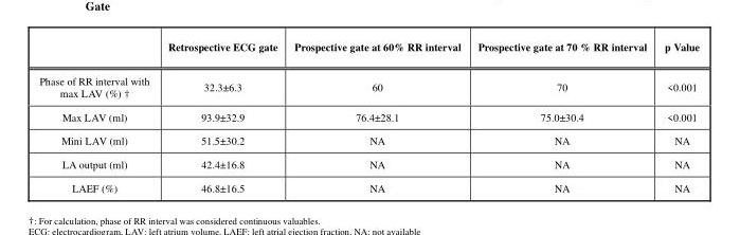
<table><thead><tr><td></td><td>Retrospective ECG gate</td><td>Prospective gate at 60% RR interval</td><td>Prospective gate at 70 % RR interval</td><td>p Value</td></tr></thead><tbody><tr><td>Phase of RR interval with max LAV (%) †</td><td>32.3±6.3</td><td>60</td><td>70</td><td>&lt;0.001</td></tr><tr><td>Max LAV (ml)</td><td>93.9±32.9</td><td>76.4±28.1</td><td>75.0±30.4</td><td>&lt;0.001</td></tr><tr><td>Mini LAV (ml)</td><td>51.5±30.2</td><td>NA</td><td>NA</td><td>NA</td></tr><tr><td>LA output (ml)</td><td>42.4±16.8</td><td>NA</td><td>NA</td><td>NA</td></tr><tr><td>LAEF (%)</td><td>46.8±16.5</td><td>NA</td><td>NA</td><td>NA</td></tr></tbody></table>